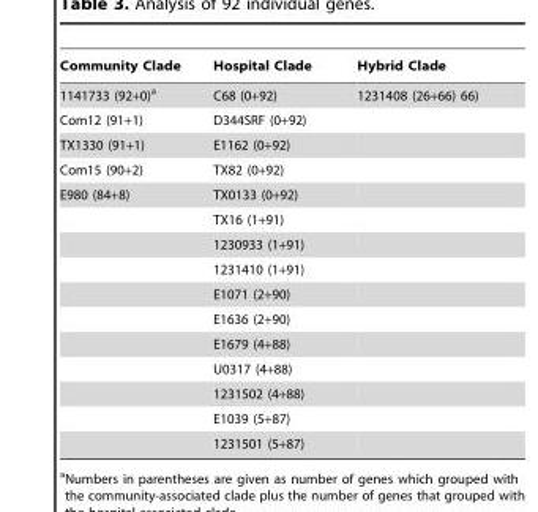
<table><thead><tr><td>Community Clade</td><td>Hospital Clade</td><td>Hybrid Clade</td></tr></thead><tbody><tr><td>1141733 (92+0)<sup>a</sup></td><td>C68 (0+92)</td><td>1231408 (26+66) 66)</td></tr><tr><td>Com12 (91+1)</td><td>D344SRF (0+92)</td><td></td></tr><tr><td>TX1330 (91+1)</td><td>E1162 (0+92)</td><td></td></tr><tr><td>Com15 (90+2)</td><td>TX82 (0+92)</td><td></td></tr><tr><td rowspan="11">E980 (84+8)</td><td>TX0133 (0+92)</td><td></td></tr><tr><td>TX16 (1+91)</td><td></td></tr><tr><td>1230933 (1+91)</td><td></td></tr><tr><td>1231410 (1+91)</td><td></td></tr><tr><td>E1071 (2+90)</td><td></td></tr><tr><td>E1636 (2+90)</td><td></td></tr><tr><td>E1679 (4+88)</td><td></td></tr><tr><td>U0317 (4+88)</td><td></td></tr><tr><td>1231502 (4+88)</td><td></td></tr><tr><td>E1039 (5+87)</td><td></td></tr><tr><td>1231501 (5+87)</td><td></td></tr></tbody></table>